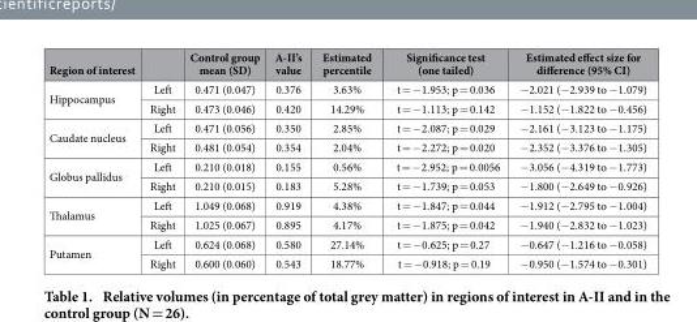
<table><thead><tr><td>Region of interest</td><td></td><td>Control group mean (SD)</td><td>A-II’s value</td><td>Estimated percentile</td><td>Significance test (one tailed)</td><td>Estimated effect size for difference (95% CI)</td></tr></thead><tbody><tr><td rowspan="2">Hippocampus</td><td>Left</td><td>0.471 (0.047)</td><td>0.376</td><td>3.63%</td><td>t = − 1.953; p = 0.036</td><td>− 2.021 (− 2.939 to − 1.079)</td></tr><tr><td>Right</td><td>0.473 (0.046)</td><td>0.420</td><td>14.29%</td><td>t = − 1.113; p = 0.142</td><td>− 1.152 (− 1.822 to − 0.456)</td></tr><tr><td rowspan="2">Caudate nucleus</td><td>Left</td><td>0.471 (0.056)</td><td>0.350</td><td>2.85%</td><td>t = − 2.087; p = 0.029</td><td>− 2.161 (− 3.123 to − 1.175)</td></tr><tr><td>Right</td><td>0.481 (0.054)</td><td>0.354</td><td>2.04%</td><td>t = − 2.272; p = 0.020</td><td>− 2.352 (− 3.376 to − 1.305)</td></tr><tr><td rowspan="2">Globus pallidus</td><td>Left</td><td>0.210 (0.018)</td><td>0.155</td><td>0.56%</td><td>t = − 2.952; p = 0.0056</td><td>− 3.056 (− 4.319 to − 1.773)</td></tr><tr><td>Right</td><td>0.210 (0.015)</td><td>0.183</td><td>5.28%</td><td>t = − 1.739; p = 0.053</td><td>− 1.800 (− 2.649 to − 0.926)</td></tr><tr><td rowspan="2">Thalamus</td><td>Left</td><td>1.049 (0.068)</td><td>0.919</td><td>4.38%</td><td>t = − 1.847; p = 0.044</td><td>− 1.912 (− 2.795 to − 1.004)</td></tr><tr><td>Right</td><td>1.025 (0.067)</td><td>0.895</td><td>4.17%</td><td>t = − 1.875; p = 0.042</td><td>− 1.940 (− 2.832 to − 1.023)</td></tr><tr><td rowspan="2">Putamen</td><td>Left</td><td>0.624 (0.068)</td><td>0.580</td><td>27.14%</td><td>t = − 0.625; p = 0.27</td><td>− 0.647 (− 1.216 to − 0.058)</td></tr><tr><td>Right</td><td>0.600 (0.060)</td><td>0.543</td><td>18.77%</td><td>t = − 0.918; p = 0.19</td><td>− 0.950 (− 1.574 to − 0.301)</td></tr></tbody></table>